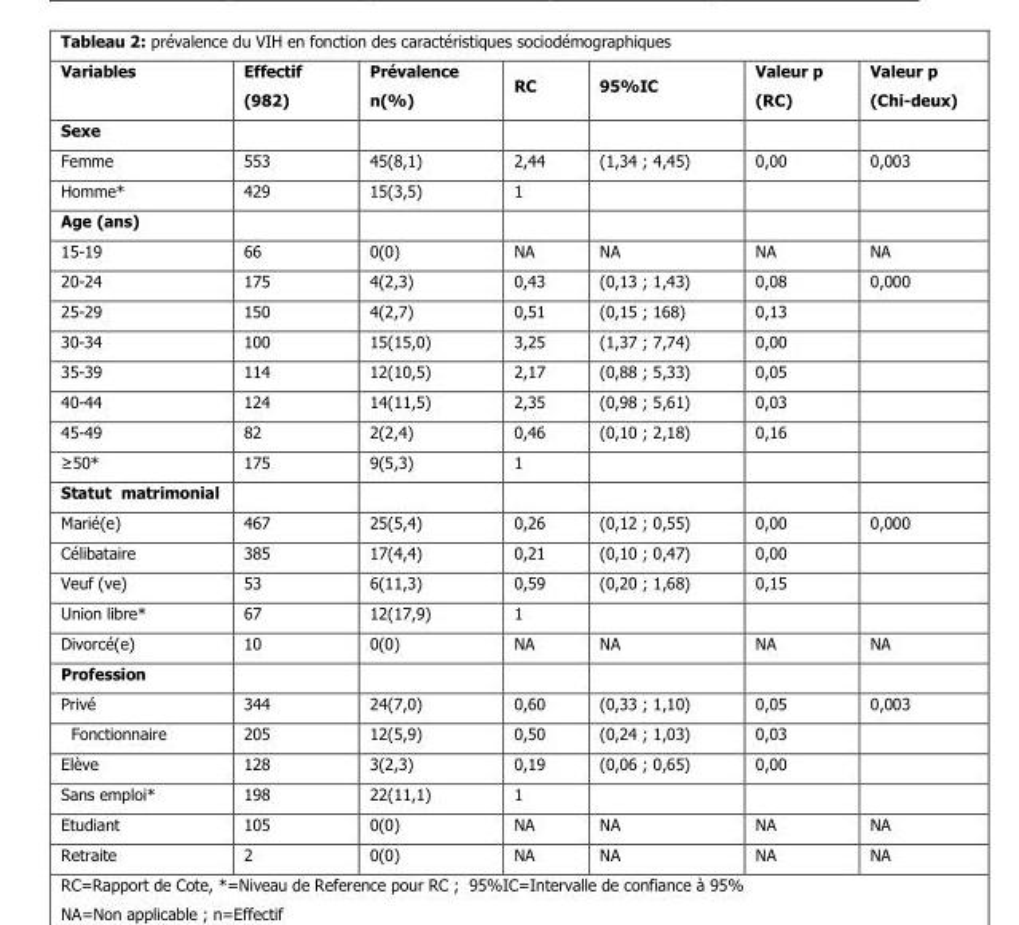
<table><thead><tr><td>Variables</td><td>Effectif (982)</td><td>Prévalence n(%)</td><td>RC</td><td>95%IC</td><td>Valeur p (RC)</td><td>Valeur p (Chi-deux)</td></tr></thead><tbody><tr><td colspan="7">Sexe</td></tr><tr><td>Femme</td><td>553</td><td>45(8,1)</td><td>2,44</td><td>(1,34 ; 4,45)</td><td>0,00</td><td>0,003</td></tr><tr><td>Homme*</td><td>429</td><td>15(3,5)</td><td>1</td><td></td><td></td><td></td></tr><tr><td colspan="7">Age (ans)</td></tr><tr><td>15-19</td><td>66</td><td>0(0)</td><td>NA</td><td>NA</td><td>NA</td><td>NA</td></tr><tr><td>20-24</td><td>175</td><td>4(2,3)</td><td>0,43</td><td>(0,13 ; 1,43)</td><td>0,08</td><td>0,000</td></tr><tr><td>25-29</td><td>150</td><td>4(2,7)</td><td>0,51</td><td>(0,15 ; 168)</td><td>0,13</td><td></td></tr><tr><td>30-34</td><td>100</td><td>15(15,0)</td><td>3,25</td><td>(1,37 ; 7,74)</td><td>0,00</td><td></td></tr><tr><td>35-39</td><td>114</td><td>12(10,5)</td><td>2,17</td><td>(0,88 ; 5,33)</td><td>0,05</td><td></td></tr><tr><td>40-44</td><td>124</td><td>14(11,5)</td><td>2,35</td><td>(0,98 ; 5,61)</td><td>0,03</td><td></td></tr><tr><td>45-49</td><td>82</td><td>2(2,4)</td><td>0,46</td><td>(0,10 ; 2,18)</td><td>0,16</td><td></td></tr><tr><td>≥50*</td><td>175</td><td>9(5,3)</td><td>1</td><td></td><td></td><td></td></tr><tr><td colspan="7">Statut matrimonial</td></tr><tr><td>Marié(e)</td><td>467</td><td>25(5,4)</td><td>0,26</td><td>(0,12 ; 0,55)</td><td>0,00</td><td>0,000</td></tr><tr><td>Célibataire</td><td>385</td><td>17(4,4)</td><td>0,21</td><td>(0,10 ; 0,47)</td><td>0,00</td><td></td></tr><tr><td>Veuf (ve)</td><td>53</td><td>6(11,3)</td><td>0,59</td><td>(0,20 ; 1,68)</td><td>0,15</td><td></td></tr><tr><td>Union libre*</td><td>67</td><td>12(17,9)</td><td>1</td><td></td><td></td><td></td></tr><tr><td>Divorcé(e)</td><td>10</td><td>0(0)</td><td>NA</td><td>NA</td><td>NA</td><td>NA</td></tr><tr><td colspan="7">Profession</td></tr><tr><td>Privé</td><td>344</td><td>24(7,0)</td><td>0,60</td><td>(0,33 ; 1,10)</td><td>0,05</td><td>0,003</td></tr><tr><td>Fonctionnaire</td><td>205</td><td>12(5,9)</td><td>0,50</td><td>(0,24 ; 1,03)</td><td>0,03</td><td></td></tr><tr><td>Elève</td><td>128</td><td>3(2,3)</td><td>0,19</td><td>(0,06 ; 0,65)</td><td>0,00</td><td></td></tr><tr><td>Sans emploi*</td><td>198</td><td>22(11,1)</td><td>1</td><td></td><td></td><td></td></tr><tr><td>Etudiant</td><td>105</td><td>0(0)</td><td>NA</td><td>NA</td><td>NA</td><td>NA</td></tr><tr><td>Retraite</td><td>2</td><td>0(0)</td><td>NA</td><td>NA</td><td>NA</td><td>NA</td></tr></tbody></table>